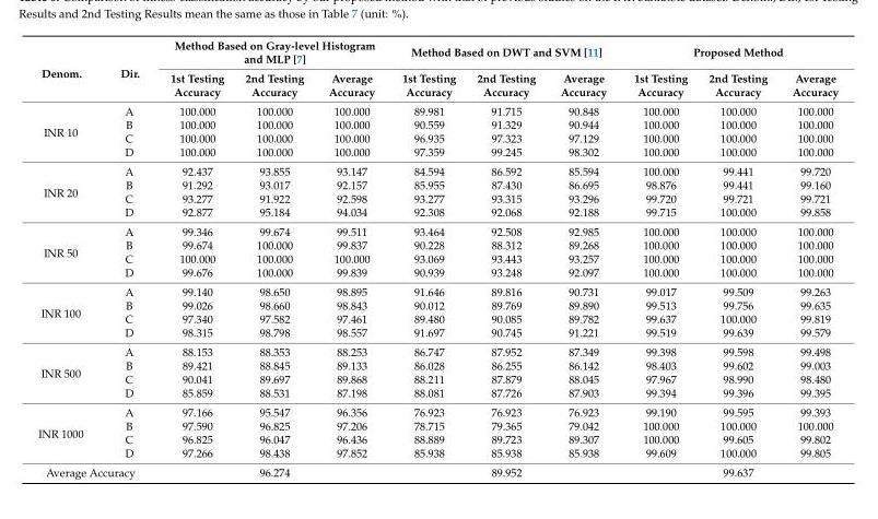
<table><thead><tr><td rowspan="2">Denom.</td><td rowspan="2">Dir.</td><td colspan="3">Method Based on Gray-level Histogram and MLP [7]</td><td colspan="3">Method Based on DWT and SVM [11]</td><td colspan="3">Proposed Method</td></tr><tr><td>1st Testing Accuracy</td><td>2nd Testing Accuracy</td><td>Average Accuracy</td><td>1st Testing Accuracy</td><td>2nd Testing Accuracy</td><td>Average Accuracy</td><td>1st Testing Accuracy</td><td>2nd Testing Accuracy</td><td>Average Accuracy</td></tr></thead><tbody><tr><td rowspan="4">INR 10</td><td>A</td><td>100.000</td><td>100.000</td><td>100.000</td><td>89.981</td><td>91.715</td><td>90.848</td><td>100.000</td><td>100.000</td><td>100.000</td></tr><tr><td>B</td><td>100.000</td><td>100.000</td><td>100.000</td><td>90.559</td><td>91.329</td><td>90.944</td><td>100.000</td><td>100.000</td><td>100.000</td></tr><tr><td>C</td><td>100.000</td><td>100.000</td><td>100.000</td><td>96.935</td><td>97.323</td><td>97.129</td><td>100.000</td><td>100.000</td><td>100.000</td></tr><tr><td>D</td><td>100.000</td><td>100.000</td><td>100.000</td><td>97.359</td><td>99.245</td><td>98.302</td><td>100.000</td><td>100.000</td><td>100.000</td></tr><tr><td rowspan="4">INR 20</td><td>A</td><td>92.437</td><td>93.855</td><td>93.147</td><td>84.594</td><td>86.592</td><td>85.594</td><td>100.000</td><td>99.441</td><td>99.720</td></tr><tr><td>B</td><td>91.292</td><td>93.017</td><td>92.157</td><td>85.955</td><td>87.430</td><td>86.695</td><td>98.876</td><td>99.441</td><td>99.160</td></tr><tr><td>C</td><td>93.277</td><td>91.922</td><td>92.598</td><td>93.277</td><td>93.315</td><td>93.296</td><td>99.720</td><td>99.721</td><td>99.721</td></tr><tr><td>D</td><td>92.877</td><td>95.184</td><td>94.034</td><td>92.308</td><td>92.068</td><td>92.188</td><td>99.715</td><td>100.000</td><td>99.858</td></tr><tr><td rowspan="4">INR 50</td><td>A</td><td>99.346</td><td>99.674</td><td>99.511</td><td>93.464</td><td>92.508</td><td>92.985</td><td>100.000</td><td>100.000</td><td>100.000</td></tr><tr><td>B</td><td>99.674</td><td>100.000</td><td>99.837</td><td>90.228</td><td>88.312</td><td>89.268</td><td>100.000</td><td>100.000</td><td>100.000</td></tr><tr><td>C</td><td>100.000</td><td>100.000</td><td>100.000</td><td>93.069</td><td>93.443</td><td>93.257</td><td>100.000</td><td>100.000</td><td>100.000</td></tr><tr><td>D</td><td>99.676</td><td>100.000</td><td>99.839</td><td>90.939</td><td>93.248</td><td>92.097</td><td>100.000</td><td>100.000</td><td>100.000</td></tr><tr><td rowspan="4">INR 100</td><td>A</td><td>99.140</td><td>98.650</td><td>98.895</td><td>91.646</td><td>89.816</td><td>90.731</td><td>99.017</td><td>99.509</td><td>99.263</td></tr><tr><td>B</td><td>99.026</td><td>98.660</td><td>98.843</td><td>90.012</td><td>89.769</td><td>89.890</td><td>99.513</td><td>99.756</td><td>99.635</td></tr><tr><td>C</td><td>97.340</td><td>97.582</td><td>97.461</td><td>89.480</td><td>90.085</td><td>89.782</td><td>99.637</td><td>100.000</td><td>99.819</td></tr><tr><td>D</td><td>98.315</td><td>98.798</td><td>98.557</td><td>91.697</td><td>90.745</td><td>91.221</td><td>99.519</td><td>99.639</td><td>99.579</td></tr><tr><td rowspan="4">INR 500</td><td>A</td><td>88.153</td><td>88.353</td><td>88.253</td><td>86.747</td><td>87.952</td><td>87.349</td><td>99.398</td><td>99.598</td><td>99.498</td></tr><tr><td>B</td><td>89.421</td><td>88.845</td><td>89.133</td><td>86.028</td><td>86.255</td><td>86.142</td><td>98.403</td><td>99.602</td><td>99.003</td></tr><tr><td>C</td><td>90.041</td><td>89.697</td><td>89.868</td><td>88.211</td><td>87.879</td><td>88.045</td><td>97.967</td><td>98.990</td><td>98.480</td></tr><tr><td>D</td><td>85.859</td><td>88.531</td><td>87.198</td><td>88.081</td><td>87.726</td><td>87.903</td><td>99.394</td><td>99.396</td><td>99.395</td></tr><tr><td rowspan="4">INR 1000</td><td>A</td><td>97.166</td><td>95.547</td><td>96.356</td><td>76.923</td><td>76.923</td><td>76.923</td><td>99.190</td><td>99.595</td><td>99.393</td></tr><tr><td>B</td><td>97.590</td><td>96.825</td><td>97.206</td><td>78.715</td><td>79.365</td><td>79.042</td><td>100.000</td><td>100.000</td><td>100.000</td></tr><tr><td>C</td><td>96.825</td><td>96.047</td><td>96.436</td><td>88.889</td><td>89.723</td><td>89.307</td><td>100.000</td><td>99.605</td><td>99.802</td></tr><tr><td>D</td><td>97.266</td><td>98.438</td><td>97.852</td><td>85.938</td><td>85.938</td><td>85.938</td><td>99.609</td><td>100.000</td><td>99.805</td></tr><tr><td colspan="2">Average Accuracy</td><td colspan="3">96.274</td><td colspan="3">89.952</td><td colspan="3">99.637</td></tr></tbody></table>